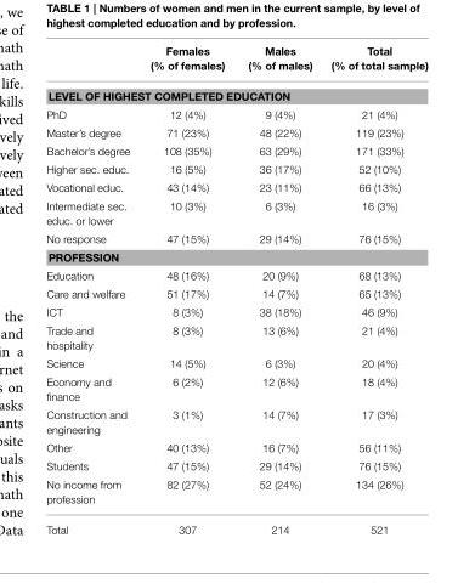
<table><thead><tr><td></td><td>Females (% of females)</td><td>Males (% of males)</td><td>Total (% of total sample)</td></tr></thead><tbody><tr><td colspan="4">LEVEL OF HIGHEST COMPLETED EDUCATION</td></tr><tr><td>PhD</td><td>12 (4%)</td><td>9 (4%)</td><td>21 (4%)</td></tr><tr><td>Master’s degree</td><td>71 (23%)</td><td>48 (22%)</td><td>119 (23%)</td></tr><tr><td>Bachelor’s degree</td><td>108 (35%)</td><td>63 (29%)</td><td>171 (33%)</td></tr><tr><td>Higher sec. educ.</td><td>16 (5%)</td><td>36 (17%)</td><td>52 (10%)</td></tr><tr><td>Vocational educ.</td><td>43 (14%)</td><td>23 (11%)</td><td>66 (13%)</td></tr><tr><td>Intermediate sec. educ. or lower</td><td>10 (3%)</td><td>6 (3%)</td><td>16 (3%)</td></tr><tr><td>No response</td><td>47 (15%)</td><td>29 (14%)</td><td>76 (15%)</td></tr><tr><td colspan="4">PROFESSION</td></tr><tr><td>Education</td><td>48 (16%)</td><td>20 (9%)</td><td>68 (13%)</td></tr><tr><td>Care and welfare</td><td>51 (17%)</td><td>14 (7%)</td><td>65 (13%)</td></tr><tr><td>ICT</td><td>8 (3%)</td><td>38 (18%)</td><td>46 (9%)</td></tr><tr><td>Trade and hospitality</td><td>8 (3%)</td><td>13 (6%)</td><td>21 (4%)</td></tr><tr><td>Science</td><td>14 (5%)</td><td>6 (3%)</td><td>20 (4%)</td></tr><tr><td>Economy and finance</td><td>6 (2%)</td><td>12 (6%)</td><td>18 (4%)</td></tr><tr><td>Construction and engineering</td><td>3 (1%)</td><td>14 (7%)</td><td>17 (3%)</td></tr><tr><td>Other</td><td>40 (13%)</td><td>16 (7%)</td><td>56 (11%)</td></tr><tr><td>Students</td><td>47 (15%)</td><td>29 (14%)</td><td>76 (15%)</td></tr><tr><td>No income from profession</td><td>82 (27%)</td><td>52 (24%)</td><td>134 (26%)</td></tr><tr><td>Total</td><td>307</td><td>214</td><td>521</td></tr></tbody></table>